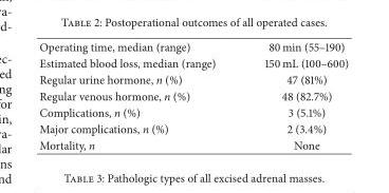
<table><tbody><tr><td>Operating time, median (range)</td><td>80 min (55–190)</td></tr><tr><td>Estimated blood loss, median (range)</td><td>150 mL (100–600)</td></tr><tr><td>Regular urine hormone, n (%)</td><td>47 (81%)</td></tr><tr><td>Regular venous hormone, n (%)</td><td>48 (82.7%)</td></tr><tr><td>Complications, n (%)</td><td>3 (5.1%)</td></tr><tr><td>Major complications, n (%)</td><td>2 (3.4%)</td></tr><tr><td>Mortality, n</td><td>None</td></tr></tbody></table>